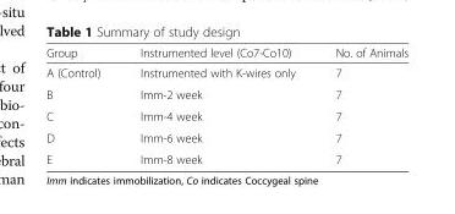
<table><thead><tr><td>Group</td><td>Instrumented level (Co7-Co10)</td><td>No. of Animals</td></tr></thead><tbody><tr><td>A (Control)</td><td>Instrumented with K-wires only</td><td>7</td></tr><tr><td>B</td><td>Imm-2 week</td><td>7</td></tr><tr><td>C</td><td>Imm-4 week</td><td>7</td></tr><tr><td>D</td><td>Imm-6 week</td><td>7</td></tr><tr><td>E</td><td>Imm-8 week</td><td>7</td></tr></tbody></table>